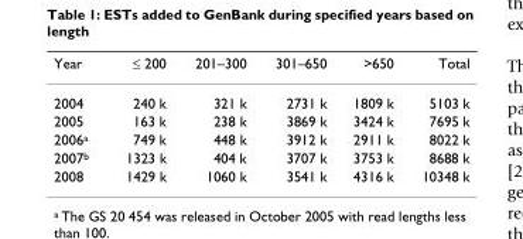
<table><thead><tr><td>Year</td><td>≤ 200</td><td>201–300</td><td>301–650</td><td>&gt;650</td><td>Total</td></tr></thead><tbody><tr><td>2004</td><td>240 k</td><td>321 k</td><td>2731 k</td><td>1809 k</td><td>5103 k</td></tr><tr><td>2005</td><td>163 k</td><td>238 k</td><td>3869 k</td><td>3424 k</td><td>7695 k</td></tr><tr><td>2006<sup>a</sup></td><td>749 k</td><td>448 k</td><td>3912 k</td><td>2911 k</td><td>8022 k</td></tr><tr><td>2007<sup>b</sup></td><td>1323 k</td><td>404 k</td><td>3707 k</td><td>3753 k</td><td>8688 k</td></tr><tr><td>2008</td><td>1429 k</td><td>1060 k</td><td>3541 k</td><td>4316 k</td><td>10348 k</td></tr></tbody></table>